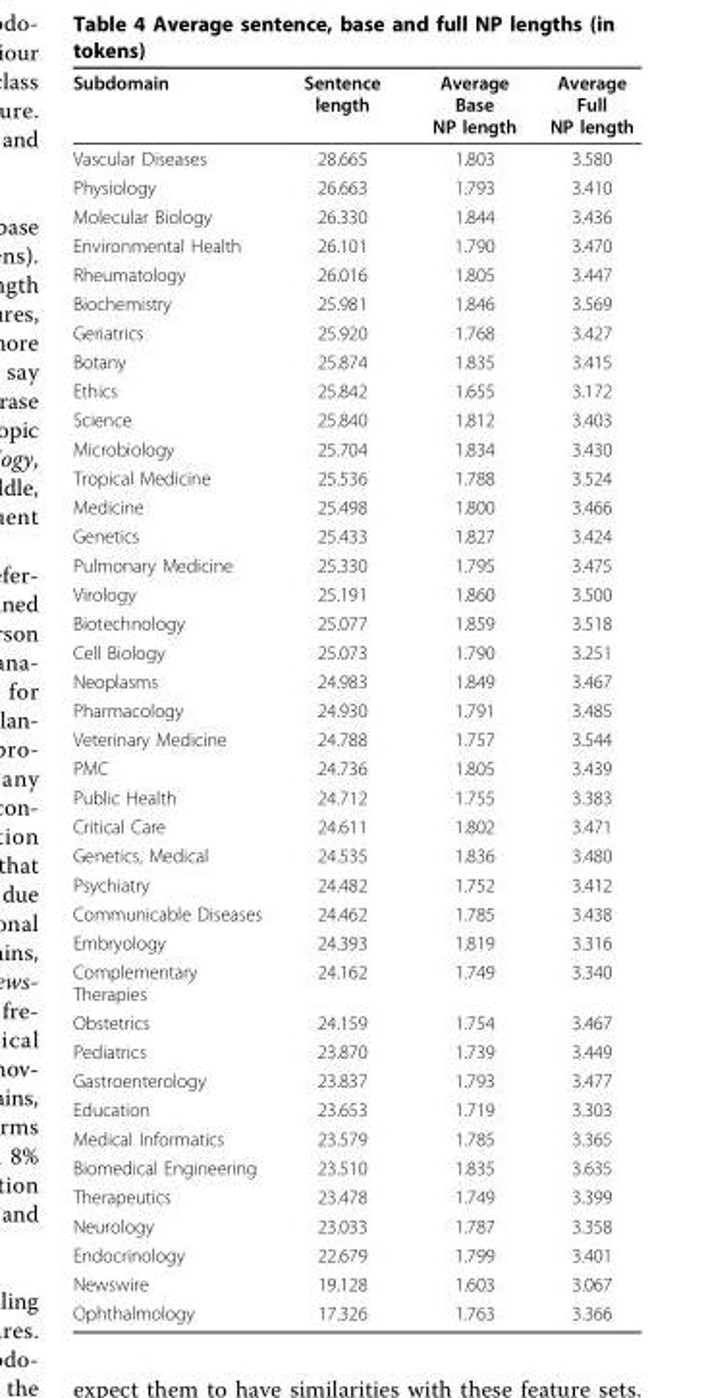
<table><thead><tr><td>Subdomain</td><td>Sentence length</td><td>Average Base NP length</td><td>Average Full NP length</td></tr></thead><tbody><tr><td>Vascular Diseases</td><td>28.665</td><td>1.803</td><td>3.580</td></tr><tr><td>Physiology</td><td>26.663</td><td>1.793</td><td>3.410</td></tr><tr><td>Molecular Biology</td><td>26.330</td><td>1.844</td><td>3.436</td></tr><tr><td>Environmental Health</td><td>26.101</td><td>1.790</td><td>3.470</td></tr><tr><td>Rheumatology</td><td>26.016</td><td>1.805</td><td>3.447</td></tr><tr><td>Biochemistry</td><td>25.981</td><td>1.846</td><td>3.569</td></tr><tr><td>Geriatrics</td><td>25.920</td><td>1.768</td><td>3.427</td></tr><tr><td>Botany</td><td>25.874</td><td>1.835</td><td>3.415</td></tr><tr><td>Ethics</td><td>25.842</td><td>1.655</td><td>3.172</td></tr><tr><td>Science</td><td>25.840</td><td>1.812</td><td>3.403</td></tr><tr><td>Microbiology</td><td>25.704</td><td>1.834</td><td>3.430</td></tr><tr><td>Tropical Medicine</td><td>25.536</td><td>1.788</td><td>3.524</td></tr><tr><td>Medicine</td><td>25.498</td><td>1.800</td><td>3.466</td></tr><tr><td>Genetics</td><td>25.433</td><td>1.827</td><td>3.424</td></tr><tr><td>Pulmonary Medicine</td><td>25.330</td><td>1.795</td><td>3.475</td></tr><tr><td>Virology</td><td>25.191</td><td>1.860</td><td>3.500</td></tr><tr><td>Biotechnology</td><td>25.077</td><td>1.859</td><td>3.518</td></tr><tr><td>Cell Biology</td><td>25.073</td><td>1.790</td><td>3.251</td></tr><tr><td>Neoplasms</td><td>24.983</td><td>1.849</td><td>3.467</td></tr><tr><td>Pharmacology</td><td>24.930</td><td>1.791</td><td>3.485</td></tr><tr><td>Veterinary Medicine</td><td>24.788</td><td>1.757</td><td>3.544</td></tr><tr><td>PMC</td><td>24.736</td><td>1.805</td><td>3.439</td></tr><tr><td>Public Health</td><td>24.712</td><td>1.755</td><td>3.383</td></tr><tr><td>Critical Care</td><td>24.611</td><td>1.802</td><td>3.471</td></tr><tr><td>Genetics, Medical</td><td>24.535</td><td>1.836</td><td>3.480</td></tr><tr><td>Psychiatry</td><td>24.482</td><td>1.752</td><td>3.412</td></tr><tr><td>Communicable Diseases</td><td>24.462</td><td>1.785</td><td>3.438</td></tr><tr><td>Embryology</td><td>24.393</td><td>1.819</td><td>3.316</td></tr><tr><td>Complementary Therapies</td><td>24.162</td><td>1.749</td><td>3.340</td></tr><tr><td>Obstetrics</td><td>24.159</td><td>1.754</td><td>3.467</td></tr><tr><td>Pediatrics</td><td>23.870</td><td>1.739</td><td>3.449</td></tr><tr><td>Gastroenterology</td><td>23.837</td><td>1.793</td><td>3.477</td></tr><tr><td>Education</td><td>23.653</td><td>1.719</td><td>3.303</td></tr><tr><td>Medical Informatics</td><td>23.579</td><td>1.785</td><td>3.365</td></tr><tr><td>Biomedical Engineering</td><td>23.510</td><td>1.835</td><td>3.635</td></tr><tr><td>Therapeutics</td><td>23.478</td><td>1.749</td><td>3.399</td></tr><tr><td>Neurology</td><td>23.033</td><td>1.787</td><td>3.358</td></tr><tr><td>Endocrinology</td><td>22.679</td><td>1.799</td><td>3.401</td></tr><tr><td>Newswire</td><td>19.128</td><td>1.603</td><td>3.067</td></tr><tr><td>Ophthalmology</td><td>17.326</td><td>1.763</td><td>3.366</td></tr></tbody></table>